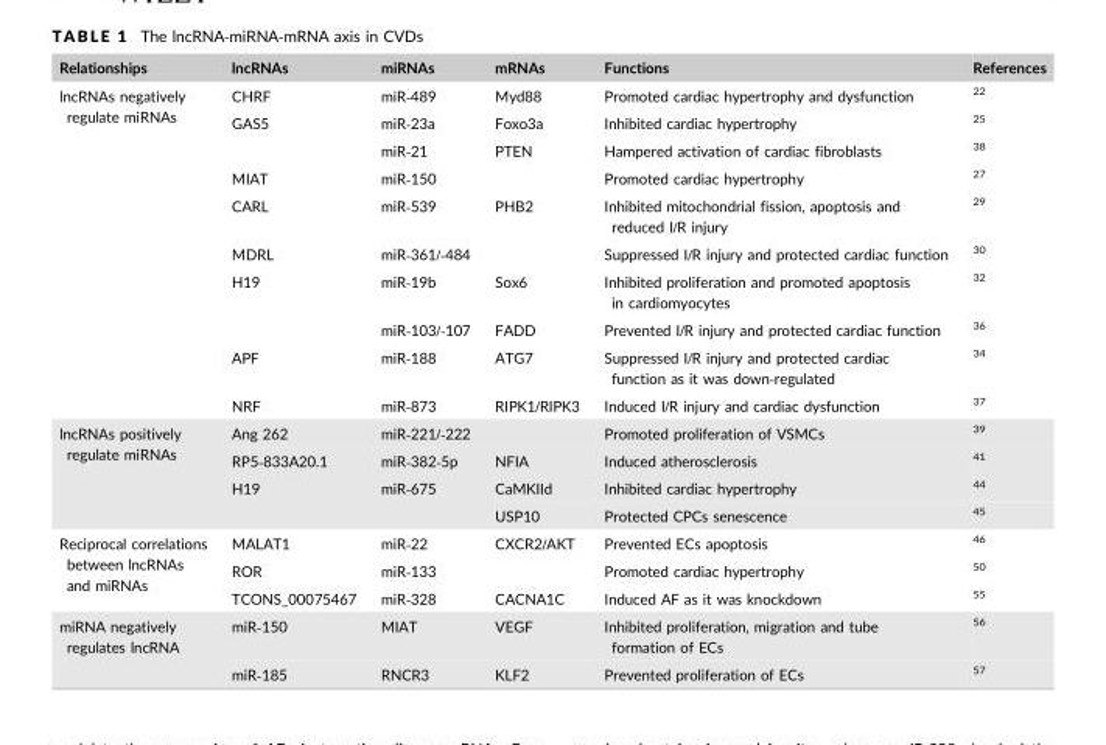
<table><thead><tr><td>Relationships</td><td>lncRNAs</td><td>miRNAs</td><td>mRNAs</td><td>Functions</td><td>References</td></tr></thead><tbody><tr><td rowspan="10">lncRNAs negatively regulate miRNAs</td><td>CHRF</td><td>miR‐489</td><td>Myd88</td><td>Promoted cardiac hypertrophy and dysfunction</td><td>22</td></tr><tr><td rowspan="2">GAS5</td><td>miR‐23a</td><td>Foxo3a</td><td>Inhibited cardiac hypertrophy</td><td>25</td></tr><tr><td>miR‐21</td><td>PTEN</td><td>Hampered activation of cardiac fibroblasts</td><td>38</td></tr><tr><td>MIAT</td><td>miR‐150</td><td></td><td>Promoted cardiac hypertrophy</td><td>27</td></tr><tr><td>CARL</td><td>miR‐539</td><td>PHB2</td><td>Inhibited mitochondrial fission, apoptosis and reduced I/R injury</td><td>29</td></tr><tr><td>MDRL</td><td>miR‐361/‐484</td><td></td><td>Suppressed I/R injury and protected cardiac function</td><td>30</td></tr><tr><td rowspan="2">H19</td><td>miR‐19b</td><td>Sox6</td><td>Inhibited proliferation and promoted apoptosis in cardiomyocytes</td><td>32</td></tr><tr><td>miR‐103/‐107</td><td>FADD</td><td>Prevented I/R injury and protected cardiac function</td><td>36</td></tr><tr><td>APF</td><td>miR‐188</td><td>ATG7</td><td>Suppressed I/R injury and protected cardiac function as it was down‐regulated</td><td>34</td></tr><tr><td>NRF</td><td>miR‐873</td><td>RIPK1/RIPK3</td><td>Induced I/R injury and cardiac dysfunction</td><td>37</td></tr><tr><td rowspan="4">lncRNAs positively regulate miRNAs</td><td>Ang 262</td><td>miR‐221/‐222</td><td></td><td>Promoted proliferation of VSMCs</td><td>39</td></tr><tr><td>RP5‐833A20.1</td><td>miR‐382‐5p</td><td>NFIA</td><td>Induced atherosclerosis</td><td>41</td></tr><tr><td rowspan="2">H19</td><td rowspan="2">miR‐675</td><td>CaMKIId</td><td>Inhibited cardiac hypertrophy</td><td>44</td></tr><tr><td>USP10</td><td>Protected CPCs senescence</td><td>45</td></tr><tr><td rowspan="3">Reciprocal correlations between lncRNAs and miRNAs</td><td>MALAT1</td><td>miR‐22</td><td>CXCR2/AKT</td><td>Prevented ECs apoptosis</td><td>46</td></tr><tr><td>ROR</td><td>miR‐133</td><td></td><td>Promoted cardiac hypertrophy</td><td>50</td></tr><tr><td>TCONS_00075467</td><td>miR‐328</td><td>CACNA1C</td><td>Induced AF as it was knockdown</td><td>55</td></tr><tr><td rowspan="2">miRNA negatively regulates lncRNA</td><td>miR‐150</td><td>MIAT</td><td>VEGF</td><td>Inhibited proliferation, migration and tube formation of ECs</td><td>56</td></tr><tr><td>miR‐185</td><td>RNCR3</td><td>KLF2</td><td>Prevented proliferation of ECs</td><td>57</td></tr></tbody></table>